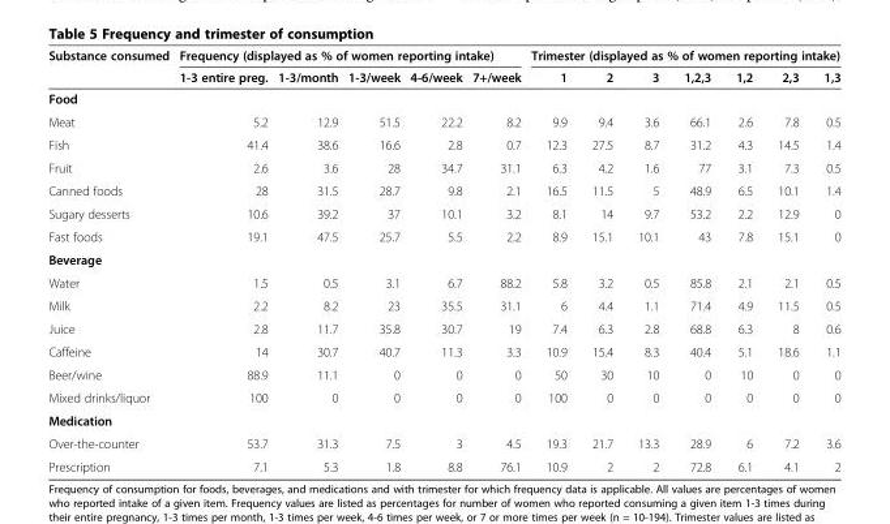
<table><thead><tr><td rowspan="2">Substance consumed</td><td colspan="5">Frequency (displayed as % of women reporting intake)</td><td colspan="7">Trimester (displayed as % of women reporting intake)</td></tr><tr><td>1-3 entire preg.</td><td>1-3/month</td><td>1-3/week</td><td>4-6/week</td><td>7+/week</td><td>1</td><td>2</td><td>3</td><td>1,2,3</td><td>1,2</td><td>2,3</td><td>1,3</td></tr></thead><tbody><tr><td colspan="13">Food</td></tr><tr><td>Meat</td><td>5.2</td><td>12.9</td><td>51.5</td><td>22.2</td><td>8.2</td><td>9.9</td><td>9.4</td><td>3.6</td><td>66.1</td><td>2.6</td><td>7.8</td><td>0.5</td></tr><tr><td>Fish</td><td>41.4</td><td>38.6</td><td>16.6</td><td>2.8</td><td>0.7</td><td>12.3</td><td>27.5</td><td>8.7</td><td>31.2</td><td>4.3</td><td>14.5</td><td>1.4</td></tr><tr><td>Fruit</td><td>2.6</td><td>3.6</td><td>28</td><td>34.7</td><td>31.1</td><td>6.3</td><td>4.2</td><td>1.6</td><td>77</td><td>3.1</td><td>7.3</td><td>0.5</td></tr><tr><td>Canned foods</td><td>28</td><td>31.5</td><td>28.7</td><td>9.8</td><td>2.1</td><td>16.5</td><td>11.5</td><td>5</td><td>48.9</td><td>6.5</td><td>10.1</td><td>1.4</td></tr><tr><td>Sugary desserts</td><td>10.6</td><td>39.2</td><td>37</td><td>10.1</td><td>3.2</td><td>8.1</td><td>14</td><td>9.7</td><td>53.2</td><td>2.2</td><td>12.9</td><td>0</td></tr><tr><td>Fast foods</td><td>19.1</td><td>47.5</td><td>25.7</td><td>5.5</td><td>2.2</td><td>8.9</td><td>15.1</td><td>10.1</td><td>43</td><td>7.8</td><td>15.1</td><td>0</td></tr><tr><td colspan="13">Beverage</td></tr><tr><td>Water</td><td>1.5</td><td>0.5</td><td>3.1</td><td>6.7</td><td>88.2</td><td>5.8</td><td>3.2</td><td>0.5</td><td>85.8</td><td>2.1</td><td>2.1</td><td>0.5</td></tr><tr><td>Milk</td><td>2.2</td><td>8.2</td><td>23</td><td>35.5</td><td>31.1</td><td>6</td><td>4.4</td><td>1.1</td><td>71.4</td><td>4.9</td><td>11.5</td><td>0.5</td></tr><tr><td>Juice</td><td>2.8</td><td>11.7</td><td>35.8</td><td>30.7</td><td>19</td><td>7.4</td><td>6.3</td><td>2.8</td><td>68.8</td><td>6.3</td><td>8</td><td>0.6</td></tr><tr><td>Caffeine</td><td>14</td><td>30.7</td><td>40.7</td><td>11.3</td><td>3.3</td><td>10.9</td><td>15.4</td><td>8.3</td><td>40.4</td><td>5.1</td><td>18.6</td><td>1.1</td></tr><tr><td>Beer/wine</td><td>88.9</td><td>11.1</td><td>0</td><td>0</td><td>0</td><td>50</td><td>30</td><td>10</td><td>0</td><td>10</td><td>0</td><td>0</td></tr><tr><td>Mixed drinks/liquor</td><td>100</td><td>0</td><td>0</td><td>0</td><td>0</td><td>100</td><td>0</td><td>0</td><td>0</td><td>0</td><td>0</td><td>0</td></tr><tr><td colspan="13">Medication</td></tr><tr><td>Over-the-counter</td><td>53.7</td><td>31.3</td><td>7.5</td><td>3</td><td>4.5</td><td>19.3</td><td>21.7</td><td>13.3</td><td>28.9</td><td>6</td><td>7.2</td><td>3.6</td></tr><tr><td>Prescription</td><td>7.1</td><td>5.3</td><td>1.8</td><td>8.8</td><td>76.1</td><td>10.9</td><td>2</td><td>2</td><td>72.8</td><td>6.1</td><td>4.1</td><td>2</td></tr></tbody></table>